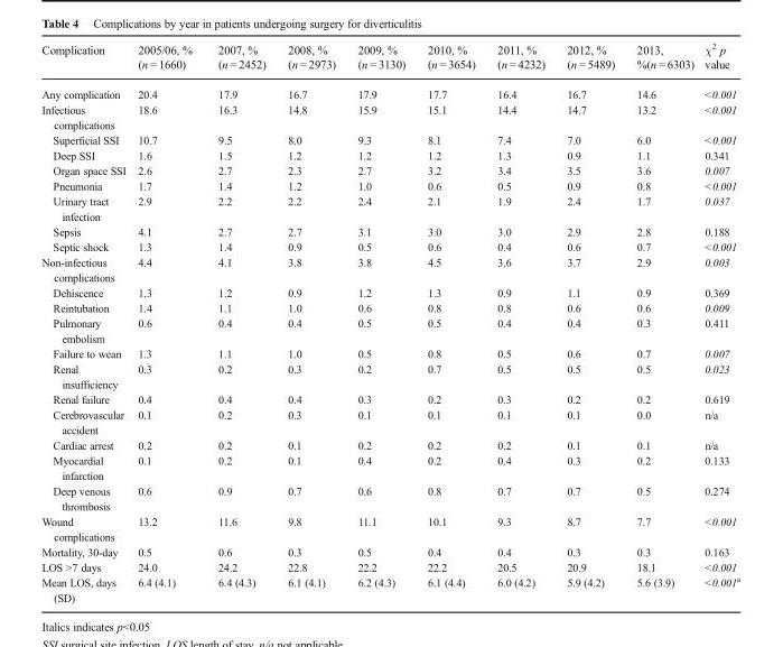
<table><thead><tr><td>Complication</td><td>2005/06, % (n = 1660)</td><td>2007, % (n = 2452)</td><td>2008, % (n = 2973)</td><td>2009, % (n = 3130)</td><td>2010, % (n = 3654)</td><td>2011, % (n = 4232)</td><td>2012, % (n = 5489)</td><td>2013, %(n = 6303)</td><td>χ<sup>2</sup> p value</td></tr></thead><tbody><tr><td>Any complication</td><td>20.4</td><td>17.9</td><td>16.7</td><td>17.9</td><td>17.7</td><td>16.4</td><td>16.7</td><td>14.6</td><td>&lt;0.001</td></tr><tr><td>Infectious complications</td><td>18.6</td><td>16.3</td><td>14.8</td><td>15.9</td><td>15.1</td><td>14.4</td><td>14.7</td><td>13.2</td><td>&lt;0.001</td></tr><tr><td>Superficial SSI</td><td>10.7</td><td>9.5</td><td>8.0</td><td>9.3</td><td>8.1</td><td>7.4</td><td>7.0</td><td>6.0</td><td>&lt;0.001</td></tr><tr><td>Deep SSI</td><td>1.6</td><td>1.5</td><td>1.2</td><td>1.2</td><td>1.2</td><td>1.3</td><td>0.9</td><td>1.1</td><td>0.341</td></tr><tr><td>Organ space SSI</td><td>2.6</td><td>2.7</td><td>2.3</td><td>2.7</td><td>3.2</td><td>3.4</td><td>3.5</td><td>3.6</td><td>0.007</td></tr><tr><td>Pneumonia</td><td>1.7</td><td>1.4</td><td>1.2</td><td>1.0</td><td>0.6</td><td>0.5</td><td>0.9</td><td>0.8</td><td>&lt;0.001</td></tr><tr><td>Urinary tract infection</td><td>2.9</td><td>2.2</td><td>2.2</td><td>2.4</td><td>2.1</td><td>1.9</td><td>2.4</td><td>1.7</td><td>0.037</td></tr><tr><td>Sepsis</td><td>4.1</td><td>2.7</td><td>2.7</td><td>3.1</td><td>3.0</td><td>3.0</td><td>2.9</td><td>2.8</td><td>0.188</td></tr><tr><td>Septic shock</td><td>1.3</td><td>1.4</td><td>0.9</td><td>0.5</td><td>0.6</td><td>0.4</td><td>0.6</td><td>0.7</td><td>&lt;0.001</td></tr><tr><td>Non-infectious complications</td><td>4.4</td><td>4.1</td><td>3.8</td><td>3.8</td><td>4.5</td><td>3.6</td><td>3.7</td><td>2.9</td><td>0.003</td></tr><tr><td>Dehiscence</td><td>1.3</td><td>1.2</td><td>0.9</td><td>1.2</td><td>1.3</td><td>0.9</td><td>1.1</td><td>0.9</td><td>0.369</td></tr><tr><td>Reintubation</td><td>1.4</td><td>1.1</td><td>1.0</td><td>0.6</td><td>0.8</td><td>0.8</td><td>0.6</td><td>0.6</td><td>0.009</td></tr><tr><td>Pulmonary embolism</td><td>0.6</td><td>0.4</td><td>0.4</td><td>0.5</td><td>0.5</td><td>0.4</td><td>0.4</td><td>0.3</td><td>0.411</td></tr><tr><td>Failure to wean</td><td>1.3</td><td>1.1</td><td>1.0</td><td>0.5</td><td>0.8</td><td>0.5</td><td>0.6</td><td>0.7</td><td>0.007</td></tr><tr><td>Renal insufficiency</td><td>0.3</td><td>0.2</td><td>0.3</td><td>0.2</td><td>0.7</td><td>0.5</td><td>0.5</td><td>0.5</td><td>0.023</td></tr><tr><td>Renal failure</td><td>0.4</td><td>0.4</td><td>0.4</td><td>0.3</td><td>0.2</td><td>0.3</td><td>0.2</td><td>0.2</td><td>0.619</td></tr><tr><td>Cerebrovascular accident</td><td>0.1</td><td>0.2</td><td>0.3</td><td>0.1</td><td>0.1</td><td>0.1</td><td>0.1</td><td>0.0</td><td>n/a</td></tr><tr><td>Cardiac arrest</td><td>0.2</td><td>0.2</td><td>0.1</td><td>0.2</td><td>0.2</td><td>0.2</td><td>0.1</td><td>0.1</td><td>n/a</td></tr><tr><td>Myocardial infarction</td><td>0.1</td><td>0.2</td><td>0.1</td><td>0.4</td><td>0.2</td><td>0.4</td><td>0.3</td><td>0.2</td><td>0.133</td></tr><tr><td>Deep venous thrombosis</td><td>0.6</td><td>0.9</td><td>0.7</td><td>0.6</td><td>0.8</td><td>0.7</td><td>0.7</td><td>0.5</td><td>0.274</td></tr><tr><td>Wound complications</td><td>13.2</td><td>11.6</td><td>9.8</td><td>11.1</td><td>10.1</td><td>9.3</td><td>8.7</td><td>7.7</td><td>&lt;0.001</td></tr><tr><td>Mortality, 30-day</td><td>0.5</td><td>0.6</td><td>0.3</td><td>0.5</td><td>0.4</td><td>0.4</td><td>0.3</td><td>0.3</td><td>0.163</td></tr><tr><td>LOS &gt;7 days</td><td>24.0</td><td>24.2</td><td>22.8</td><td>22.2</td><td>22.2</td><td>20.5</td><td>20.9</td><td>18.1</td><td>&lt;0.001</td></tr><tr><td>Mean LOS, days (SD)</td><td>6.4 (4.1)</td><td>6.4 (4.3)</td><td>6.1 (4.1)</td><td>6.2 (4.3)</td><td>6.1 (4.4)</td><td>6.0 (4.2)</td><td>5.9 (4.2)</td><td>5.6 (3.9)</td><td>&lt;0.001<sup>a</sup></td></tr></tbody></table>